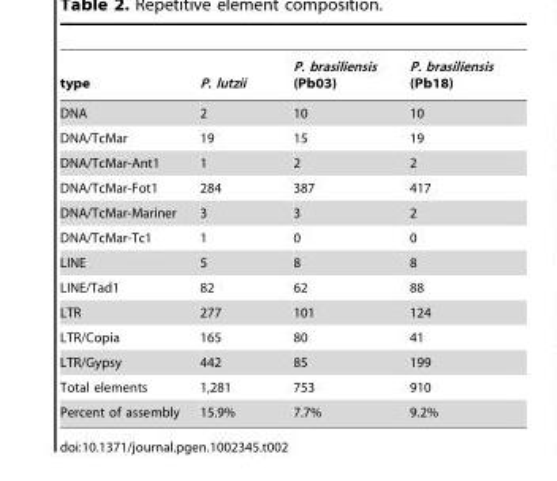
<table><thead><tr><td>type</td><td>P. lutzii</td><td>P. brasiliensis (Pb03)</td><td>P. brasiliensis (Pb18)</td></tr></thead><tbody><tr><td>DNA</td><td>2</td><td>10</td><td>10</td></tr><tr><td>DNA/TcMar</td><td>19</td><td>15</td><td>19</td></tr><tr><td>DNA/TcMar-Ant1</td><td>1</td><td>2</td><td>2</td></tr><tr><td>DNA/TcMar-Fot1</td><td>284</td><td>387</td><td>417</td></tr><tr><td>DNA/TcMar-Mariner</td><td>3</td><td>3</td><td>2</td></tr><tr><td>DNA/TcMar-Tc1</td><td>1</td><td>0</td><td>0</td></tr><tr><td>LINE</td><td>5</td><td>8</td><td>8</td></tr><tr><td>LINE/Tad1</td><td>82</td><td>62</td><td>88</td></tr><tr><td>LTR</td><td>277</td><td>101</td><td>124</td></tr><tr><td>LTR/Copia</td><td>165</td><td>80</td><td>41</td></tr><tr><td>LTR/Gypsy</td><td>442</td><td>85</td><td>199</td></tr><tr><td>Total elements</td><td>1,281</td><td>753</td><td>910</td></tr><tr><td>Percent of assembly</td><td>15.9%</td><td>7.7%</td><td>9.2%</td></tr></tbody></table>